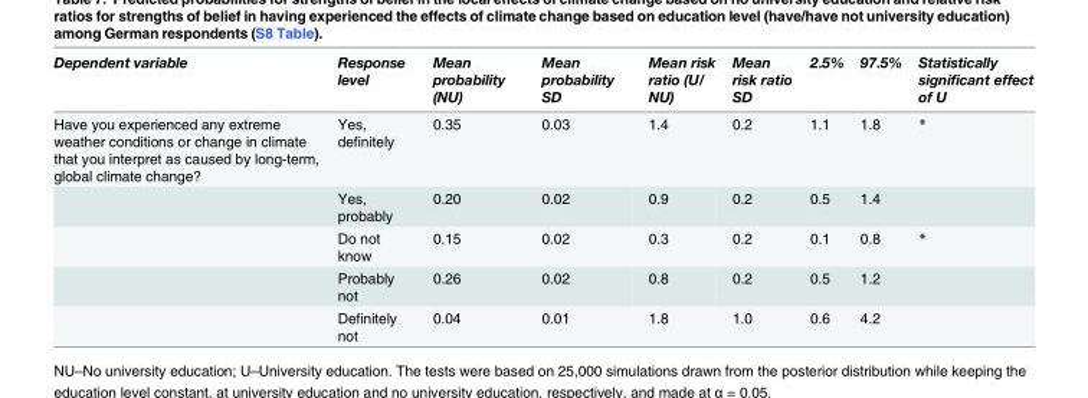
<table><thead><tr><td>Dependent variable</td><td>Response level</td><td>Mean probability (NU)</td><td>Mean probability SD</td><td>Mean risk ratio (U/ NU)</td><td>Mean risk ratio SD</td><td>2.5%</td><td>97.5%</td><td>Statistically significant effect of U</td></tr></thead><tbody><tr><td rowspan="5">Have you experienced any extreme weather conditions or change in climate that you interpret as caused by long-term, global climate change?</td><td>Yes, definitely</td><td>0.35</td><td>0.03</td><td>1.4</td><td>0.2</td><td>1.1</td><td>1.8</td><td>*</td></tr><tr><td>Yes, probably</td><td>0.20</td><td>0.02</td><td>0.9</td><td>0.2</td><td>0.5</td><td>1.4</td><td></td></tr><tr><td>Do not know</td><td>0.15</td><td>0.02</td><td>0.3</td><td>0.2</td><td>0.1</td><td>0.8</td><td>*</td></tr><tr><td>Probably not</td><td>0.26</td><td>0.02</td><td>0.8</td><td>0.2</td><td>0.5</td><td>1.2</td><td></td></tr><tr><td>Definitely not</td><td>0.04</td><td>0.01</td><td>1.8</td><td>1.0</td><td>0.6</td><td>4.2</td><td></td></tr></tbody></table>